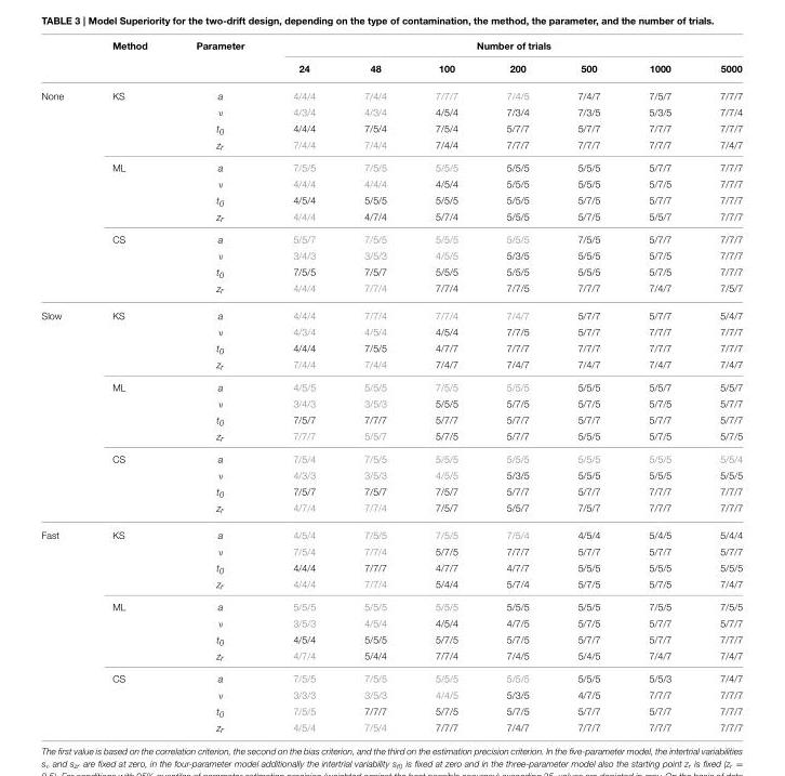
<table><thead><tr><td rowspan="2"></td><td rowspan="2">Method</td><td rowspan="2">Parameter</td><td colspan="7">Number of trials</td></tr><tr><td>24</td><td>48</td><td>100</td><td>200</td><td>500</td><td>1000</td><td>5000</td></tr></thead><tbody><tr><td rowspan="12">None</td><td>KS</td><td>a</td><td>4/4/4</td><td>7/4/4</td><td>7/7/7</td><td>7/4/5</td><td>7/4/7</td><td>7/5/7</td><td>7/7/7</td></tr><tr><td></td><td>ν</td><td>4/3/4</td><td>4/3/4</td><td>4/5/4</td><td>7/3/4</td><td>7/3/5</td><td>5/3/5</td><td>7/7/4</td></tr><tr><td></td><td>t<sub>0</sub></td><td>4/4/4</td><td>7/5/4</td><td>7/5/4</td><td>5/7/7</td><td>5/7/7</td><td>7/7/7</td><td>7/7/7</td></tr><tr><td></td><td>z<sub>r</sub></td><td>7/4/4</td><td>7/4/4</td><td>7/4/4</td><td>7/7/7</td><td>7/7/7</td><td>7/7/7</td><td>7/4/7</td></tr><tr><td>ML</td><td>a</td><td>7/5/5</td><td>7/5/5</td><td>5/5/5</td><td>5/5/5</td><td>5/5/5</td><td>5/7/7</td><td>7/7/7</td></tr><tr><td></td><td>ν</td><td>4/4/4</td><td>4/4/4</td><td>4/5/4</td><td>5/5/5</td><td>5/5/5</td><td>5/7/5</td><td>7/7/7</td></tr><tr><td></td><td>t<sub>0</sub></td><td>4/5/4</td><td>5/5/5</td><td>5/5/5</td><td>5/5/5</td><td>5/7/5</td><td>5/7/7</td><td>7/7/7</td></tr><tr><td></td><td>z<sub>r</sub></td><td>4/4/4</td><td>4/7/4</td><td>5/7/4</td><td>5/5/5</td><td>5/7/5</td><td>5/5/7</td><td>7/7/7</td></tr><tr><td>CS</td><td>a</td><td>5/5/7</td><td>7/5/5</td><td>5/5/5</td><td>5/5/5</td><td>7/5/5</td><td>5/7/7</td><td>7/7/7</td></tr><tr><td></td><td>ν</td><td>3/4/3</td><td>3/5/3</td><td>4/5/5</td><td>5/3/5</td><td>5/5/5</td><td>5/7/5</td><td>7/7/7</td></tr><tr><td></td><td>t<sub>0</sub></td><td>7/5/5</td><td>7/5/7</td><td>5/5/5</td><td>5/5/5</td><td>5/5/5</td><td>5/7/5</td><td>7/7/7</td></tr><tr><td></td><td>z<sub>r</sub></td><td>4/4/4</td><td>7/7/4</td><td>7/7/4</td><td>7/7/5</td><td>7/7/7</td><td>7/4/7</td><td>7/5/7</td></tr><tr><td rowspan="12">Slow</td><td>KS</td><td>a</td><td>4/4/4</td><td>7/7/4</td><td>7/7/4</td><td>7/4/7</td><td>5/7/7</td><td>5/7/7</td><td>5/4/7</td></tr><tr><td></td><td>ν</td><td>4/3/4</td><td>4/5/4</td><td>4/5/4</td><td>7/7/5</td><td>5/7/7</td><td>7/7/7</td><td>7/7/7</td></tr><tr><td></td><td>t<sub>0</sub></td><td>4/4/4</td><td>7/5/5</td><td>4/7/7</td><td>7/7/7</td><td>7/7/7</td><td>7/7/7</td><td>7/7/7</td></tr><tr><td></td><td>z<sub>r</sub></td><td>7/4/4</td><td>7/4/4</td><td>7/4/7</td><td>7/4/7</td><td>7/4/7</td><td>7/4/7</td><td>7/4/7</td></tr><tr><td>ML</td><td>a</td><td>4/5/5</td><td>5/5/5</td><td>7/5/5</td><td>5/5/5</td><td>5/5/5</td><td>5/5/7</td><td>5/5/7</td></tr><tr><td></td><td>ν</td><td>3/4/3</td><td>3/5/3</td><td>5/5/5</td><td>5/7/5</td><td>5/7/5</td><td>5/7/5</td><td>5/7/7</td></tr><tr><td></td><td>t<sub>0</sub></td><td>7/5/7</td><td>7/7/7</td><td>5/7/7</td><td>5/7/7</td><td>5/7/7</td><td>5/7/7</td><td>5/7/7</td></tr><tr><td></td><td>z<sub>r</sub></td><td>7/7/7</td><td>5/5/7</td><td>5/7/5</td><td>5/7/7</td><td>5/5/5</td><td>5/7/5</td><td>5/7/5</td></tr><tr><td>CS</td><td>a</td><td>7/5/4</td><td>7/5/5</td><td>5/5/5</td><td>5/5/5</td><td>5/5/5</td><td>5/5/5</td><td>5/5/4</td></tr><tr><td></td><td>ν</td><td>4/3/3</td><td>3/5/3</td><td>4/5/5</td><td>5/3/5</td><td>5/5/5</td><td>5/5/5</td><td>5/5/5</td></tr><tr><td></td><td>t<sub>0</sub></td><td>7/5/7</td><td>7/5/7</td><td>7/5/7</td><td>5/7/7</td><td>5/7/7</td><td>7/7/7</td><td>7/7/7</td></tr><tr><td></td><td>z<sub>r</sub></td><td>4/7/4</td><td>7/7/4</td><td>7/5/7</td><td>5/5/7</td><td>7/5/7</td><td>7/7/7</td><td>7/7/7</td></tr><tr><td rowspan="12">Fast</td><td>KS</td><td>a</td><td>4/5/4</td><td>7/5/5</td><td>7/5/5</td><td>7/5/4</td><td>4/5/4</td><td>5/4/5</td><td>5/4/4</td></tr><tr><td></td><td>ν</td><td>7/5/4</td><td>7/7/4</td><td>5/7/5</td><td>7/7/7</td><td>5/7/7</td><td>5/7/7</td><td>5/7/7</td></tr><tr><td></td><td>t<sub>0</sub></td><td>4/4/4</td><td>7/7/7</td><td>4/7/7</td><td>4/7/7</td><td>5/5/5</td><td>5/5/5</td><td>5/5/5</td></tr><tr><td></td><td>z<sub>r</sub></td><td>4/4/4</td><td>7/7/4</td><td>5/4/4</td><td>5/7/4</td><td>5/7/5</td><td>5/7/5</td><td>7/4/7</td></tr><tr><td>ML</td><td>a</td><td>5/5/5</td><td>5/5/5</td><td>5/5/5</td><td>5/5/5</td><td>5/5/5</td><td>7/5/5</td><td>7/5/5</td></tr><tr><td></td><td>ν</td><td>3/5/3</td><td>4/5/4</td><td>4/5/4</td><td>4/7/5</td><td>5/7/5</td><td>5/7/7</td><td>5/7/7</td></tr><tr><td></td><td>t<sub>0</sub></td><td>4/5/4</td><td>5/5/5</td><td>5/7/5</td><td>5/7/5</td><td>5/7/7</td><td>5/7/7</td><td>7/7/7</td></tr><tr><td></td><td>z<sub>r</sub></td><td>4/7/4</td><td>5/4/4</td><td>7/7/4</td><td>7/4/5</td><td>5/4/5</td><td>7/4/7</td><td>7/4/7</td></tr><tr><td>CS</td><td>a</td><td>7/5/5</td><td>7/5/5</td><td>5/5/5</td><td>5/5/5</td><td>5/5/5</td><td>5/5/3</td><td>7/4/7</td></tr><tr><td></td><td>ν</td><td>3/3/3</td><td>3/5/3</td><td>4/4/5</td><td>5/3/5</td><td>4/7/5</td><td>7/7/7</td><td>7/7/7</td></tr><tr><td></td><td>t<sub>0</sub></td><td>7/5/5</td><td>7/7/7</td><td>5/7/5</td><td>5/7/5</td><td>5/7/7</td><td>5/7/7</td><td>7/7/7</td></tr><tr><td></td><td>z<sub>r</sub></td><td>4/5/4</td><td>7/5/4</td><td>7/7/7</td><td>7/4/7</td><td>7/7/7</td><td>7/7/7</td><td>7/7/7</td></tr></tbody></table>